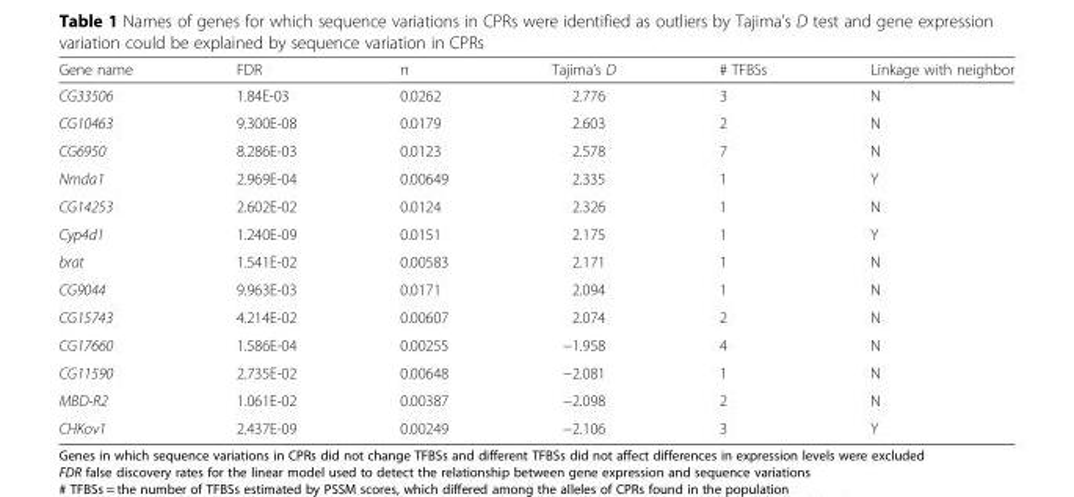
<table><thead><tr><td>Gene name</td><td>FDR</td><td>π</td><td>Tajima’s D</td><td># TFBSs</td><td>Linkage with neighbor</td></tr></thead><tbody><tr><td>CG33506</td><td>1.84E-03</td><td>0.0262</td><td>2.776</td><td>3</td><td>N</td></tr><tr><td>CG10463</td><td>9.300E-08</td><td>0.0179</td><td>2.603</td><td>2</td><td>N</td></tr><tr><td>CG6950</td><td>8.286E-03</td><td>0.0123</td><td>2.578</td><td>7</td><td>N</td></tr><tr><td>Nmda1</td><td>2.969E-04</td><td>0.00649</td><td>2.335</td><td>1</td><td>Y</td></tr><tr><td>CG14253</td><td>2.602E-02</td><td>0.0124</td><td>2.326</td><td>1</td><td>N</td></tr><tr><td>Cyp4d1</td><td>1.240E-09</td><td>0.0151</td><td>2.175</td><td>1</td><td>Y</td></tr><tr><td>brat</td><td>1.541E-02</td><td>0.00583</td><td>2.171</td><td>1</td><td>N</td></tr><tr><td>CG9044</td><td>9.963E-03</td><td>0.0171</td><td>2.094</td><td>1</td><td>N</td></tr><tr><td>CG15743</td><td>4.214E-02</td><td>0.00607</td><td>2.074</td><td>2</td><td>N</td></tr><tr><td>CG17660</td><td>1.586E-04</td><td>0.00255</td><td>−1.958</td><td>4</td><td>N</td></tr><tr><td>CG11590</td><td>2.735E-02</td><td>0.00648</td><td>−2.081</td><td>1</td><td>N</td></tr><tr><td>MBD-R2</td><td>1.061E-02</td><td>0.00387</td><td>−2.098</td><td>2</td><td>N</td></tr><tr><td>CHKov1</td><td>2.437E-09</td><td>0.00249</td><td>−2.106</td><td>3</td><td>Y</td></tr></tbody></table>